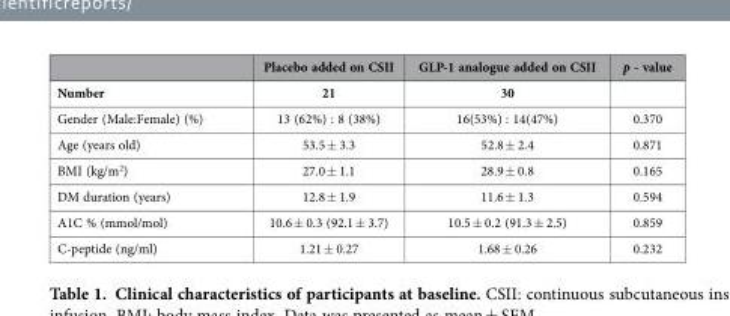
<table><thead><tr><td rowspan="2">Number</td><td rowspan="2">Placebo added on CSII 21</td><td rowspan="2">GLP-1 analogue added on CSII 30</td><td rowspan="2">p - value</td></tr><tr></tr></thead><tbody><tr><td>Gender (Male:Female) (%)</td><td>13 (62%) : 8 (38%)</td><td>16(53%) : 14(47%)</td><td>0.370</td></tr><tr><td>Age (years old)</td><td>53.5 ± 3.3</td><td>52.8 ± 2.4</td><td>0.871</td></tr><tr><td>BMI (kg/m<sup>2</sup>)</td><td>27.0 ± 1.1</td><td>28.9 ± 0.8</td><td>0.165</td></tr><tr><td>DM duration (years)</td><td>12.8 ± 1.9</td><td>11.6 ± 1.3</td><td>0.594</td></tr><tr><td>A1C % (mmol/mol)</td><td>10.6 ± 0.3 (92.1 ± 3.7)</td><td>10.5 ± 0.2 (91.3 ± 2.5)</td><td>0.859</td></tr><tr><td>C-peptide (ng/ml)</td><td>1.21 ± 0.27</td><td>1.68 ± 0.26</td><td>0.232</td></tr></tbody></table>